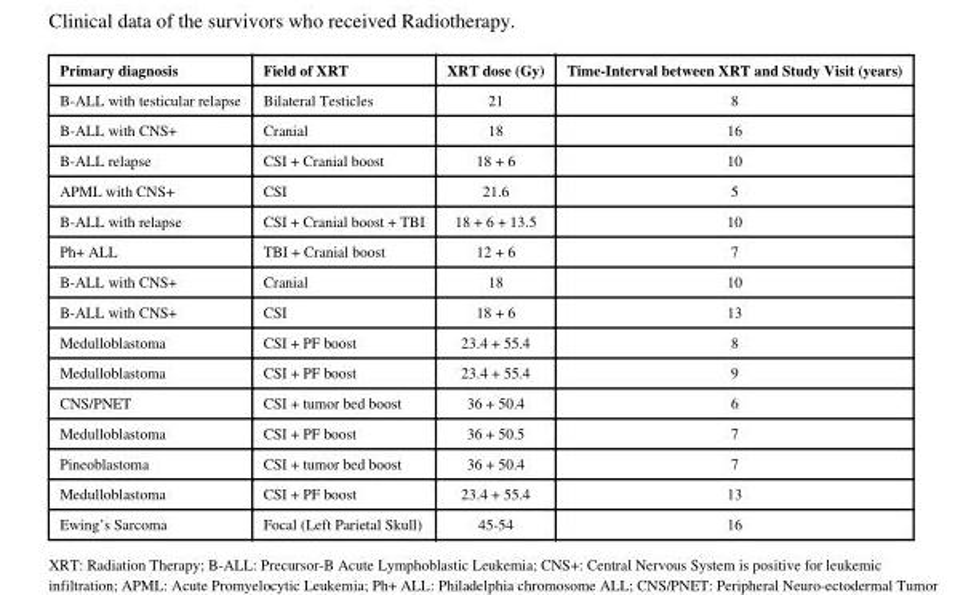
<table><thead><tr><td>Primary diagnosis</td><td>Field of XRT</td><td>XRT dose (Gy)</td><td>Time-Interval between XRT and Study Visit (years)</td></tr></thead><tbody><tr><td>B-ALL with testicular relapse</td><td>Bilateral Testicles</td><td>21</td><td>8</td></tr><tr><td>B-ALL with CNS+</td><td>Cranial</td><td>18</td><td>16</td></tr><tr><td>B-ALL relapse</td><td>CSI + Cranial boost</td><td>18 + 6</td><td>10</td></tr><tr><td>APML with CNS+</td><td>CSI</td><td>21.6</td><td>5</td></tr><tr><td>B-ALL with relapse</td><td>CSI + Cranial boost + TBI</td><td>18 + 6 + 13.5</td><td>10</td></tr><tr><td>Ph+ ALL</td><td>TBI + Cranial boost</td><td>12 + 6</td><td>7</td></tr><tr><td>B-ALL with CNS+</td><td>Cranial</td><td>18</td><td>10</td></tr><tr><td>B-ALL with CNS+</td><td>CSI</td><td>18 + 6</td><td>13</td></tr><tr><td>Medulloblastoma</td><td>CSI + PF boost</td><td>23.4 + 55.4</td><td>8</td></tr><tr><td>Medulloblastoma</td><td>CSI + PF boost</td><td>23.4 + 55.4</td><td>9</td></tr><tr><td>CNS/PNET</td><td>CSI + tumor bed boost</td><td>36 + 50.4</td><td>6</td></tr><tr><td>Medulloblastoma</td><td>CSI + PF boost</td><td>36 + 50.5</td><td>7</td></tr><tr><td>Pineoblastoma</td><td>CSI + tumor bed boost</td><td>36 + 50.4</td><td>7</td></tr><tr><td>Medulloblastoma</td><td>CSI + PF boost</td><td>23.4 + 55.4</td><td>13</td></tr><tr><td>Ewing’s Sarcoma</td><td>Focal (Left Parietal Skull)</td><td>45-54</td><td>16</td></tr></tbody></table>